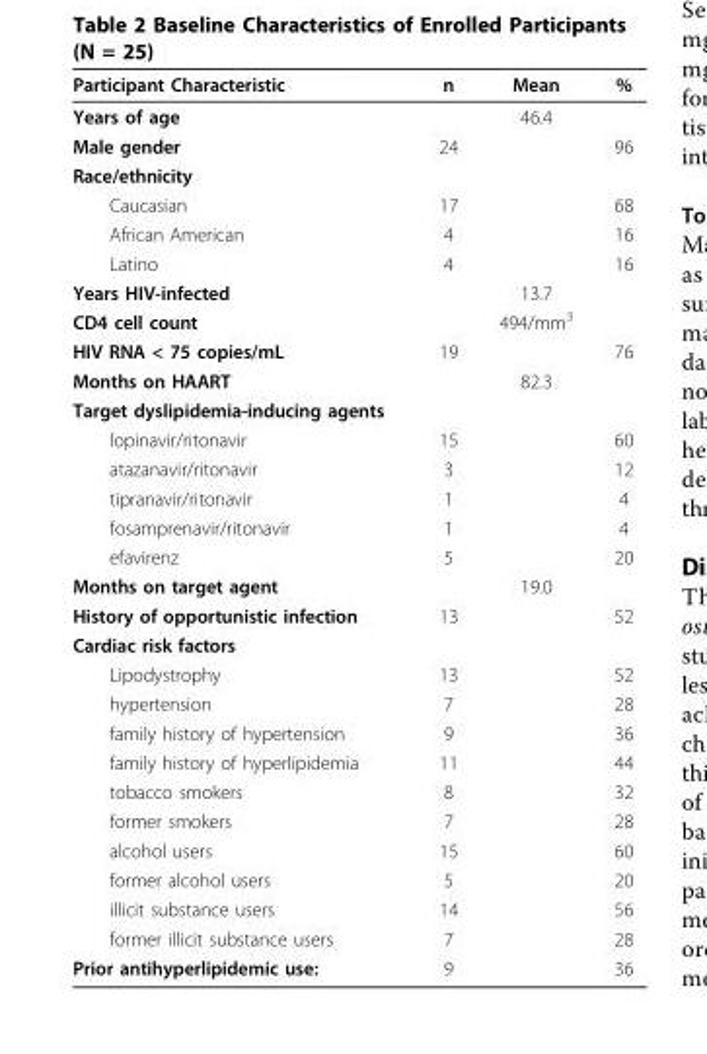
<table><thead><tr><td>Participant Characteristic</td><td>n</td><td>Mean</td><td>%</td></tr></thead><tbody><tr><td>Years of age</td><td></td><td>46.4</td><td></td></tr><tr><td>Male gender</td><td>24</td><td></td><td>96</td></tr><tr><td colspan="4">Race/ethnicity</td></tr><tr><td>Caucasian</td><td>17</td><td></td><td>68</td></tr><tr><td>African American</td><td>4</td><td></td><td>16</td></tr><tr><td>Latino</td><td>4</td><td></td><td>16</td></tr><tr><td>Years HIV-infected</td><td></td><td>13.7</td><td></td></tr><tr><td>CD4 cell count</td><td></td><td>494/mm<sup>3</sup></td><td></td></tr><tr><td>HIV RNA &lt; 75 copies/mL</td><td>19</td><td></td><td>76</td></tr><tr><td>Months on HAART</td><td></td><td>82.3</td><td></td></tr><tr><td colspan="4">Target dyslipidemia-inducing agents</td></tr><tr><td>lopinavir/ritonavir</td><td>15</td><td></td><td>60</td></tr><tr><td>atazanavir/ritonavir</td><td>3</td><td></td><td>12</td></tr><tr><td>tipranavir/ritonavir</td><td>1</td><td></td><td>4</td></tr><tr><td>fosamprenavir/ritonavir</td><td>1</td><td></td><td>4</td></tr><tr><td>efavirenz</td><td>5</td><td></td><td>20</td></tr><tr><td>Months on target agent</td><td></td><td>19.0</td><td></td></tr><tr><td>History of opportunistic infection</td><td>13</td><td></td><td>52</td></tr><tr><td colspan="4">Cardiac risk factors</td></tr><tr><td>Lipodystrophy</td><td>13</td><td></td><td>52</td></tr><tr><td>hypertension</td><td>7</td><td></td><td>28</td></tr><tr><td>family history of hypertension</td><td>9</td><td></td><td>36</td></tr><tr><td>family history of hyperlipidemia</td><td>11</td><td></td><td>44</td></tr><tr><td>tobacco smokers</td><td>8</td><td></td><td>32</td></tr><tr><td>former smokers</td><td>7</td><td></td><td>28</td></tr><tr><td>alcohol users</td><td>15</td><td></td><td>60</td></tr><tr><td>former alcohol users</td><td>5</td><td></td><td>20</td></tr><tr><td>illicit substance users</td><td>14</td><td></td><td>56</td></tr><tr><td>former illicit substance users</td><td>7</td><td></td><td>28</td></tr><tr><td>Prior antihyperlipidemic use:</td><td>9</td><td></td><td>36</td></tr></tbody></table>